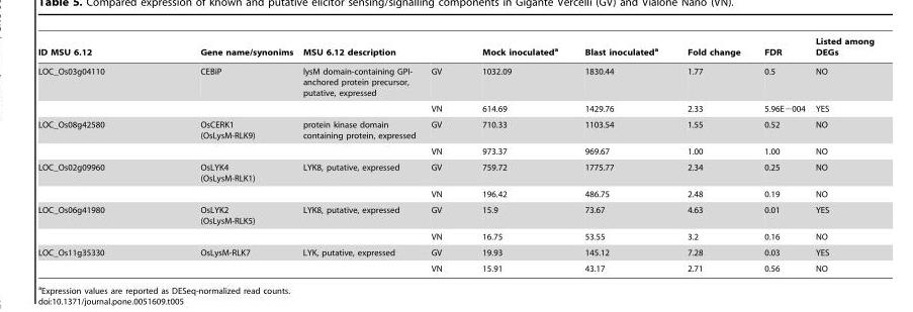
<table><thead><tr><td>ID MSU 6.12</td><td>Gene name/synonims</td><td>MSU 6.12 description</td><td></td><td>Mock inoculated<sup>a</sup></td><td>Blast inoculated<sup>a</sup></td><td>Fold change</td><td>FDR</td><td>Listed among DEGs</td></tr></thead><tbody><tr><td rowspan="2">LOC_Os03g04110</td><td>CEBiP</td><td>lysM domain-containing GPI- anchored protein precursor, putative, expressed</td><td>GV</td><td>1032.09</td><td>1830.44</td><td>1.77</td><td>0.5</td><td>NO</td></tr><tr><td></td><td></td><td>VN</td><td>614.69</td><td>1429.76</td><td>2.33</td><td>5.96E−004</td><td>YES</td></tr><tr><td rowspan="2">LOC_Os08g42580</td><td>OsCERK1 (OsLysM-RLK9)</td><td>protein kinase domain containing protein, expressed</td><td>GV</td><td>710.33</td><td>1103.54</td><td>1.55</td><td>0.52</td><td>NO</td></tr><tr><td></td><td></td><td>VN</td><td>973.37</td><td>969.67</td><td>1.00</td><td>1.00</td><td>NO</td></tr><tr><td rowspan="2">LOC_Os02g09960</td><td>OsLYK4 (OsLysM-RLK1)</td><td>LYK8, putative, expressed</td><td>GV</td><td>759.72</td><td>1775.77</td><td>2.34</td><td>0.25</td><td>NO</td></tr><tr><td></td><td></td><td>VN</td><td>196.42</td><td>486.75</td><td>2.48</td><td>0.19</td><td>NO</td></tr><tr><td rowspan="2">LOC_Os06g41980</td><td>OsLYK2 (OsLysM-RLK5)</td><td>LYK8, putative, expressed</td><td>GV</td><td>15.9</td><td>73.67</td><td>4.63</td><td>0.01</td><td>YES</td></tr><tr><td></td><td></td><td>VN</td><td>16.75</td><td>53.55</td><td>3.2</td><td>0.16</td><td>NO</td></tr><tr><td rowspan="2">LOC_Os11g35330</td><td>OsLysM-RLK7</td><td>LYK, putative, expressed</td><td>GV</td><td>19.93</td><td>145.12</td><td>7.28</td><td>0.03</td><td>YES</td></tr><tr><td></td><td></td><td>VN</td><td>15.91</td><td>43.17</td><td>2.71</td><td>0.56</td><td>NO</td></tr></tbody></table>